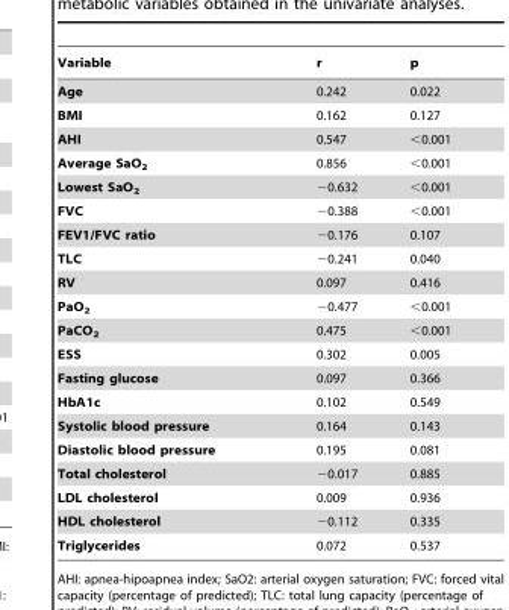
<table><thead><tr><td>Variable</td><td>r</td><td>p</td></tr></thead><tbody><tr><td>Age</td><td>0.242</td><td>0.022</td></tr><tr><td>BMI</td><td>0.162</td><td>0.127</td></tr><tr><td>AHI</td><td>0.547</td><td>&lt;0.001</td></tr><tr><td>Average SaO<sub>2</sub></td><td>0.856</td><td>&lt;0.001</td></tr><tr><td>Lowest SaO<sub>2</sub></td><td>−0.632</td><td>&lt;0.001</td></tr><tr><td>FVC</td><td>−0.388</td><td>&lt;0.001</td></tr><tr><td>FEV1/FVC ratio</td><td>−0.176</td><td>0.107</td></tr><tr><td>TLC</td><td>−0.241</td><td>0.040</td></tr><tr><td>RV</td><td>0.097</td><td>0.416</td></tr><tr><td>PaO<sub>2</sub></td><td>−0.477</td><td>&lt;0.001</td></tr><tr><td>PaCO<sub>2</sub></td><td>0.475</td><td>&lt;0.001</td></tr><tr><td>ESS</td><td>0.302</td><td>0.005</td></tr><tr><td>Fasting glucose</td><td>0.097</td><td>0.366</td></tr><tr><td>HbA1c</td><td>0.102</td><td>0.549</td></tr><tr><td>Systolic blood pressure</td><td>0.164</td><td>0.143</td></tr><tr><td>Diastolic blood pressure</td><td>0.195</td><td>0.081</td></tr><tr><td>Total cholesterol</td><td>−0.017</td><td>0.885</td></tr><tr><td>LDL cholesterol</td><td>0.009</td><td>0.936</td></tr><tr><td>HDL cholesterol</td><td>−0.112</td><td>0.335</td></tr><tr><td>Triglycerides</td><td>0.072</td><td>0.537</td></tr></tbody></table>